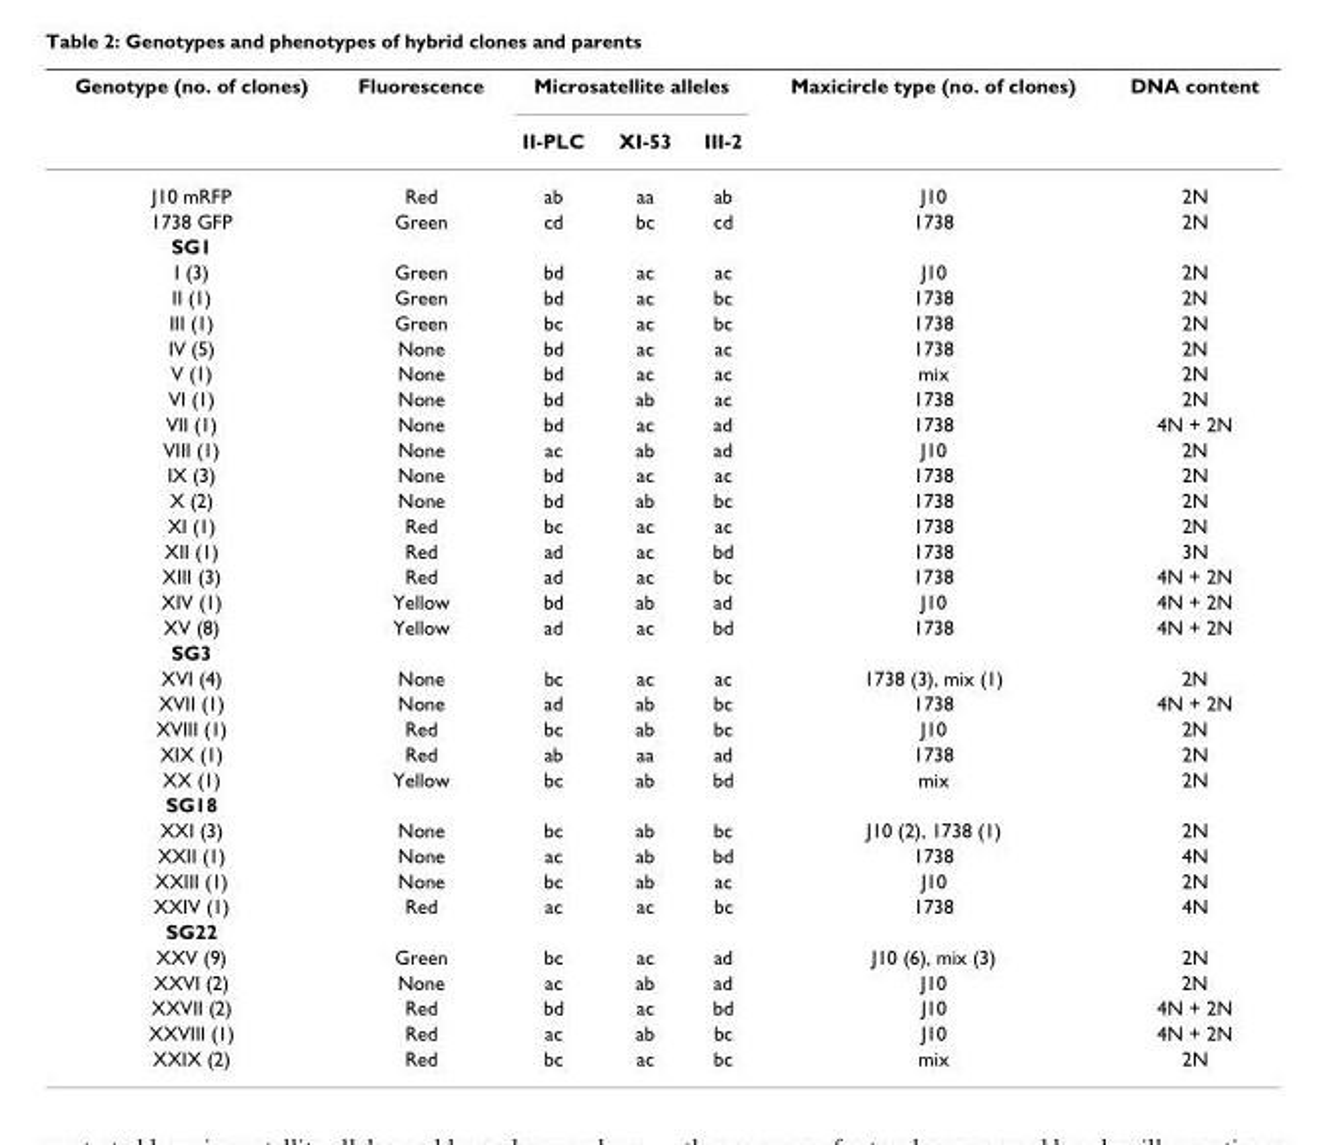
<table><thead><tr><td rowspan="2">Genotype (no. of clones)</td><td rowspan="2">Fluorescence</td><td colspan="3">Microsatellite alleles</td><td rowspan="2">Maxicircle type (no. of clones)</td><td rowspan="2">DNA content</td></tr><tr><td>II-PLC</td><td>XI-53</td><td>III-2</td></tr></thead><tbody><tr><td>J10 mRFP</td><td>Red</td><td>ab</td><td>aa</td><td>ab</td><td>J10</td><td>2N</td></tr><tr><td>1738 GFP</td><td>Green</td><td>cd</td><td>bc</td><td>cd</td><td>1738</td><td>2N</td></tr><tr><td colspan="7">SG1</td></tr><tr><td>I (3)</td><td>Green</td><td>bd</td><td>ac</td><td>ac</td><td>J10</td><td>2N</td></tr><tr><td>II (1)</td><td>Green</td><td>bd</td><td>ac</td><td>bc</td><td>1738</td><td>2N</td></tr><tr><td>III (1)</td><td>Green</td><td>bc</td><td>ac</td><td>bc</td><td>1738</td><td>2N</td></tr><tr><td>IV (5)</td><td>None</td><td>bd</td><td>ac</td><td>ac</td><td>1738</td><td>2N</td></tr><tr><td>V (1)</td><td>None</td><td>bd</td><td>ac</td><td>ac</td><td>mix</td><td>2N</td></tr><tr><td>VI (1)</td><td>None</td><td>bd</td><td>ab</td><td>ac</td><td>1738</td><td>2N</td></tr><tr><td>VII (1)</td><td>None</td><td>bd</td><td>ac</td><td>ad</td><td>1738</td><td>4N + 2N</td></tr><tr><td>VIII (1)</td><td>None</td><td>ac</td><td>ab</td><td>ad</td><td>J10</td><td>2N</td></tr><tr><td>IX (3)</td><td>None</td><td>bd</td><td>ac</td><td>ac</td><td>1738</td><td>2N</td></tr><tr><td>X (2)</td><td>None</td><td>bd</td><td>ab</td><td>bc</td><td>1738</td><td>2N</td></tr><tr><td>XI (1)</td><td>Red</td><td>bc</td><td>ac</td><td>ac</td><td>1738</td><td>2N</td></tr><tr><td>XII (1)</td><td>Red</td><td>ad</td><td>ac</td><td>bd</td><td>1738</td><td>3N</td></tr><tr><td>XIII (3)</td><td>Red</td><td>ad</td><td>ac</td><td>bc</td><td>1738</td><td>4N + 2N</td></tr><tr><td>XIV (1)</td><td>Yellow</td><td>bd</td><td>ab</td><td>ad</td><td>J10</td><td>4N + 2N</td></tr><tr><td>XV (8)</td><td>Yellow</td><td>ad</td><td>ac</td><td>bd</td><td>1738</td><td>4N + 2N</td></tr><tr><td colspan="7">SG3</td></tr><tr><td>XVI (4)</td><td>None</td><td>bc</td><td>ac</td><td>ac</td><td>1738 (3), mix (1)</td><td>2N</td></tr><tr><td>XVII (1)</td><td>None</td><td>ad</td><td>ab</td><td>bc</td><td>1738</td><td>4N + 2N</td></tr><tr><td>XVIII (1)</td><td>Red</td><td>bc</td><td>ab</td><td>bc</td><td>J10</td><td>2N</td></tr><tr><td>XIX (1)</td><td>Red</td><td>ab</td><td>aa</td><td>ad</td><td>1738</td><td>2N</td></tr><tr><td>XX (1)</td><td>Yellow</td><td>bc</td><td>ab</td><td>bd</td><td>mix</td><td>2N</td></tr><tr><td colspan="7">SG18</td></tr><tr><td>XXI (3)</td><td>None</td><td>bc</td><td>ab</td><td>bc</td><td>J10 (2), 1738 (1)</td><td>2N</td></tr><tr><td>XXII (1)</td><td>None</td><td>ac</td><td>ab</td><td>bd</td><td>1738</td><td>4N</td></tr><tr><td>XXIII (1)</td><td>None</td><td>bc</td><td>ab</td><td>ac</td><td>J10</td><td>2N</td></tr><tr><td>XXIV (1)</td><td>Red</td><td>ac</td><td>ac</td><td>bc</td><td>1738</td><td>4N</td></tr><tr><td colspan="7">SG22</td></tr><tr><td>XXV (9)</td><td>Green</td><td>bc</td><td>ac</td><td>ad</td><td>J10 (6), mix (3)</td><td>2N</td></tr><tr><td>XXVI (2)</td><td>None</td><td>ac</td><td>ab</td><td>ad</td><td>J10</td><td>2N</td></tr><tr><td>XXVII (2)</td><td>Red</td><td>bd</td><td>ac</td><td>bd</td><td>J10</td><td>4N + 2N</td></tr><tr><td>XXVIII (1)</td><td>Red</td><td>ac</td><td>ab</td><td>bc</td><td>J10</td><td>4N + 2N</td></tr><tr><td>XXIX (2)</td><td>Red</td><td>bc</td><td>ac</td><td>bc</td><td>mix</td><td>2N</td></tr></tbody></table>